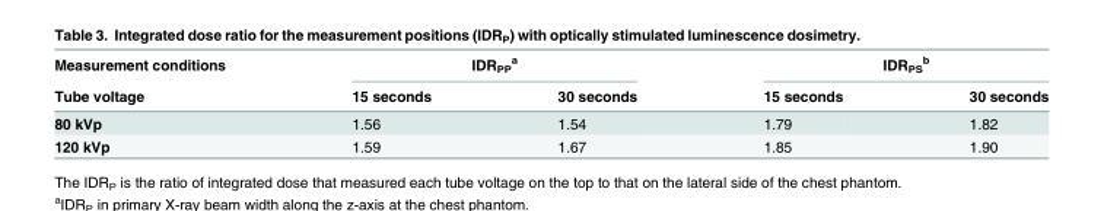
<table><thead><tr><td rowspan="2">Measurement conditions Tube voltage</td><td colspan="2">IDR<sub>PP</sub> <sup>a</sup></td><td colspan="2">IDR<sub>PS</sub> <sup>b</sup></td></tr><tr><td>15 seconds</td><td>30 seconds</td><td>15 seconds</td><td>30 seconds</td></tr></thead><tbody><tr><td>80 kVp</td><td>1.56</td><td>1.54</td><td>1.79</td><td>1.82</td></tr><tr><td>120 kVp</td><td>1.59</td><td>1.67</td><td>1.85</td><td>1.90</td></tr></tbody></table>